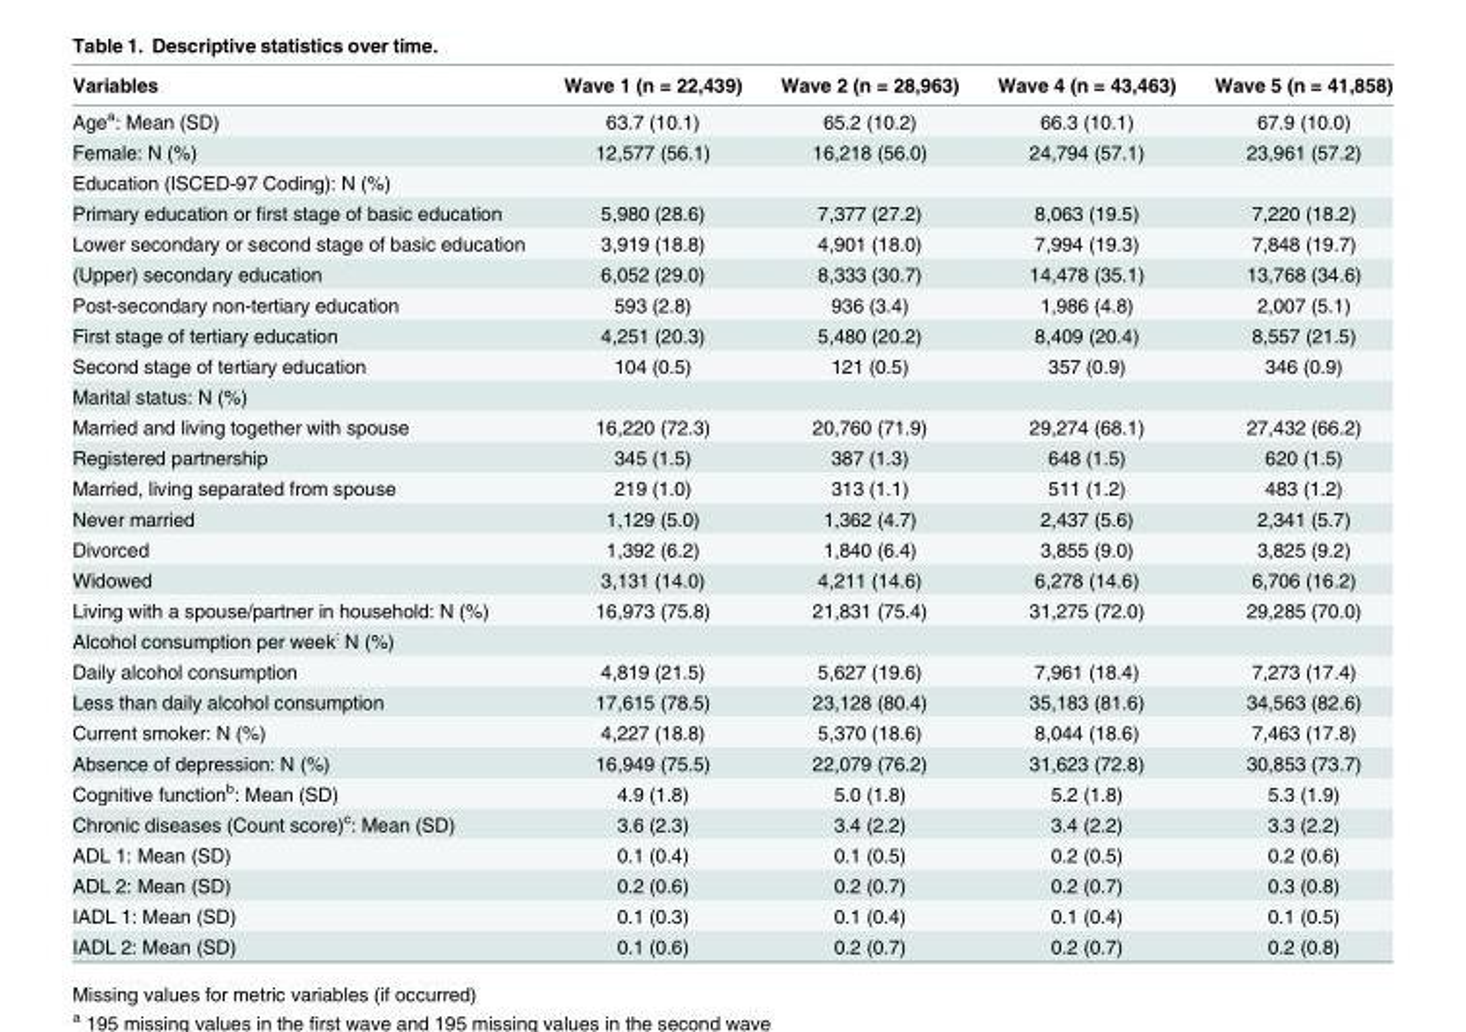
<table><thead><tr><td>Variables</td><td>Wave 1 (n = 22,439)</td><td>Wave 2 (n = 28,963)</td><td>Wave 4 (n = 43,463)</td><td>Wave 5 (n = 41,858)</td></tr></thead><tbody><tr><td>Age<sup>a</sup>: Mean (SD)</td><td>63.7 (10.1)</td><td>65.2 (10.2)</td><td>66.3 (10.1)</td><td>67.9 (10.0)</td></tr><tr><td>Female: N (%)</td><td>12,577 (56.1)</td><td>16,218 (56.0)</td><td>24,794 (57.1)</td><td>23,961 (57.2)</td></tr><tr><td colspan="5">Education (ISCED-97 Coding): N (%)</td></tr><tr><td>Primary education or first stage of basic education</td><td>5,980 (28.6)</td><td>7,377 (27.2)</td><td>8,063 (19.5)</td><td>7,220 (18.2)</td></tr><tr><td>Lower secondary or second stage of basic education</td><td>3,919 (18.8)</td><td>4,901 (18.0)</td><td>7,994 (19.3)</td><td>7,848 (19.7)</td></tr><tr><td>(Upper) secondary education</td><td>6,052 (29.0)</td><td>8,333 (30.7)</td><td>14,478 (35.1)</td><td>13,768 (34.6)</td></tr><tr><td>Post-secondary non-tertiary education</td><td>593 (2.8)</td><td>936 (3.4)</td><td>1,986 (4.8)</td><td>2,007 (5.1)</td></tr><tr><td>First stage of tertiary education</td><td>4,251 (20.3)</td><td>5,480 (20.2)</td><td>8,409 (20.4)</td><td>8,557 (21.5)</td></tr><tr><td>Second stage of tertiary education</td><td>104 (0.5)</td><td>121 (0.5)</td><td>357 (0.9)</td><td>346 (0.9)</td></tr><tr><td colspan="5">Marital status: N (%)</td></tr><tr><td>Married and living together with spouse</td><td>16,220 (72.3)</td><td>20,760 (71.9)</td><td>29,274 (68.1)</td><td>27,432 (66.2)</td></tr><tr><td>Registered partnership</td><td>345 (1.5)</td><td>387 (1.3)</td><td>648 (1.5)</td><td>620 (1.5)</td></tr><tr><td>Married, living separated from spouse</td><td>219 (1.0)</td><td>313 (1.1)</td><td>511 (1.2)</td><td>483 (1.2)</td></tr><tr><td>Never married</td><td>1,129 (5.0)</td><td>1,362 (4.7)</td><td>2,437 (5.6)</td><td>2,341 (5.7)</td></tr><tr><td>Divorced</td><td>1,392 (6.2)</td><td>1,840 (6.4)</td><td>3,855 (9.0)</td><td>3,825 (9.2)</td></tr><tr><td>Widowed</td><td>3,131 (14.0)</td><td>4,211 (14.6)</td><td>6,278 (14.6)</td><td>6,706 (16.2)</td></tr><tr><td>Living with a spouse/partner in household: N (%)</td><td>16,973 (75.8)</td><td>21,831 (75.4)</td><td>31,275 (72.0)</td><td>29,285 (70.0)</td></tr><tr><td colspan="5">Alcohol consumption per week<sup>:</sup> N (%)</td></tr><tr><td>Daily alcohol consumption</td><td>4,819 (21.5)</td><td>5,627 (19.6)</td><td>7,961 (18.4)</td><td>7,273 (17.4)</td></tr><tr><td>Less than daily alcohol consumption</td><td>17,615 (78.5)</td><td>23,128 (80.4)</td><td>35,183 (81.6)</td><td>34,563 (82.6)</td></tr><tr><td>Current smoker: N (%)</td><td>4,227 (18.8)</td><td>5,370 (18.6)</td><td>8,044 (18.6)</td><td>7,463 (17.8)</td></tr><tr><td>Absence of depression: N (%)</td><td>16,949 (75.5)</td><td>22,079 (76.2)</td><td>31,623 (72.8)</td><td>30,853 (73.7)</td></tr><tr><td>Cognitive function<sup>b</sup>: Mean (SD)</td><td>4.9 (1.8)</td><td>5.0 (1.8)</td><td>5.2 (1.8)</td><td>5.3 (1.9)</td></tr><tr><td>Chronic diseases (Count score)<sup>c</sup>: Mean (SD)</td><td>3.6 (2.3)</td><td>3.4 (2.2)</td><td>3.4 (2.2)</td><td>3.3 (2.2)</td></tr><tr><td>ADL 1: Mean (SD)</td><td>0.1 (0.4)</td><td>0.1 (0.5)</td><td>0.2 (0.5)</td><td>0.2 (0.6)</td></tr><tr><td>ADL 2: Mean (SD)</td><td>0.2 (0.6)</td><td>0.2 (0.7)</td><td>0.2 (0.7)</td><td>0.3 (0.8)</td></tr><tr><td>IADL 1: Mean (SD)</td><td>0.1 (0.3)</td><td>0.1 (0.4)</td><td>0.1 (0.4)</td><td>0.1 (0.5)</td></tr><tr><td>IADL 2: Mean (SD)</td><td>0.1 (0.6)</td><td>0.2 (0.7)</td><td>0.2 (0.7)</td><td>0.2 (0.8)</td></tr></tbody></table>